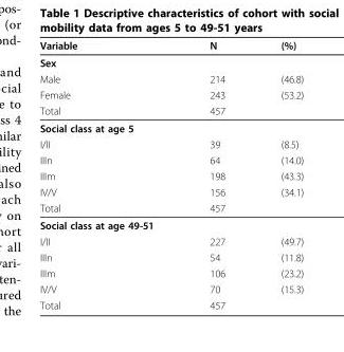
<table><thead><tr><td>Variable</td><td>N</td><td>(%)</td></tr></thead><tbody><tr><td colspan="3">Sex</td></tr><tr><td>Male</td><td>214</td><td>(46.8)</td></tr><tr><td>Female</td><td>243</td><td>(53.2)</td></tr><tr><td>Total</td><td>457</td><td></td></tr><tr><td colspan="3">Social class at age 5</td></tr><tr><td>I/II</td><td>39</td><td>(8.5)</td></tr><tr><td>IIIn</td><td>64</td><td>(14.0)</td></tr><tr><td>IIIm</td><td>198</td><td>(43.3)</td></tr><tr><td>IV/V</td><td>156</td><td>(34.1)</td></tr><tr><td>Total</td><td>457</td><td></td></tr><tr><td colspan="3">Social class at age 49-51</td></tr><tr><td>I/II</td><td>227</td><td>(49.7)</td></tr><tr><td>IIIn</td><td>54</td><td>(11.8)</td></tr><tr><td>IIIm</td><td>106</td><td>(23.2)</td></tr><tr><td>IV/V</td><td>70</td><td>(15.3)</td></tr><tr><td>Total</td><td>457</td><td></td></tr></tbody></table>